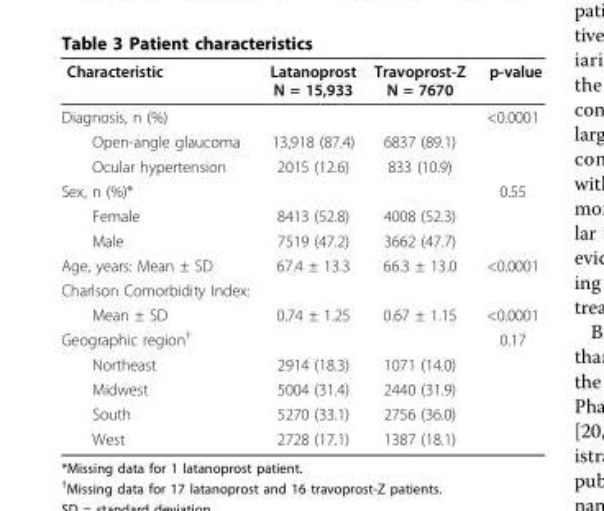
<table><thead><tr><td>Characteristic</td><td>Latanoprost N = 15,933</td><td>Travoprost-Z N = 7670</td><td>p-value</td></tr></thead><tbody><tr><td>Diagnosis, n (%)</td><td></td><td></td><td>&lt;0.0001</td></tr><tr><td>Open-angle glaucoma</td><td>13,918 (87.4)</td><td>6837 (89.1)</td><td></td></tr><tr><td>Ocular hypertension</td><td>2015 (12.6)</td><td>833 (10.9)</td><td></td></tr><tr><td>Sex, n (%)*</td><td></td><td></td><td>0.55</td></tr><tr><td>Female</td><td>8413 (52.8)</td><td>4008 (52.3)</td><td></td></tr><tr><td>Male</td><td>7519 (47.2)</td><td>3662 (47.7)</td><td></td></tr><tr><td>Age, years: Mean ± SD</td><td>67.4 ± 13.3</td><td>66.3 ± 13.0</td><td>&lt;0.0001</td></tr><tr><td colspan="4">Charlson Comorbidity Index:</td></tr><tr><td>Mean ± SD</td><td>0.74 ± 1.25</td><td>0.67 ± 1.15</td><td>&lt;0.0001</td></tr><tr><td>Geographic region<sup>†</sup></td><td></td><td></td><td>0.17</td></tr><tr><td>Northeast</td><td>2914 (18.3)</td><td>1071 (14.0)</td><td></td></tr><tr><td>Midwest</td><td>5004 (31.4)</td><td>2440 (31.9)</td><td></td></tr><tr><td>South</td><td>5270 (33.1)</td><td>2756 (36.0)</td><td></td></tr><tr><td>West</td><td>2728 (17.1)</td><td>1387 (18.1)</td><td></td></tr></tbody></table>